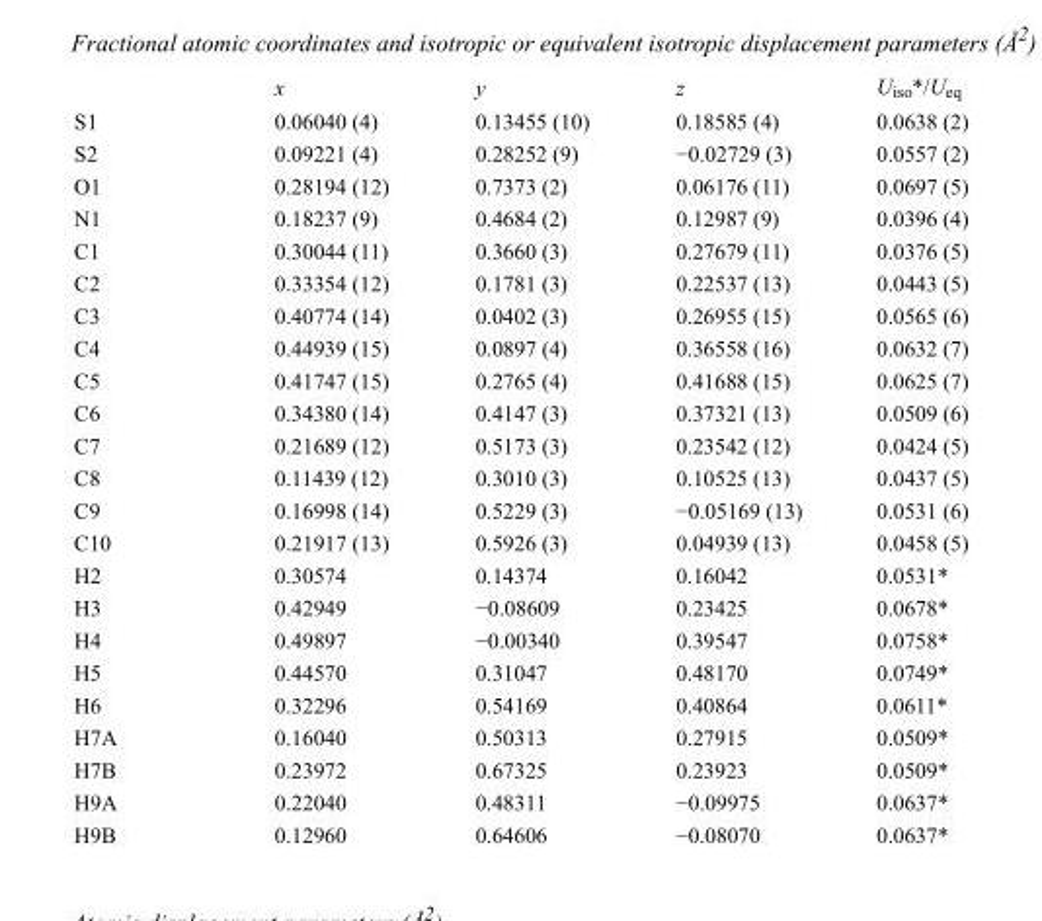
<table><thead><tr><td></td><td>x</td><td>y</td><td>z</td><td>U<sub>iso</sub>*/U<sub>eq</sub></td></tr></thead><tbody><tr><td>S1</td><td>0.06040 (4)</td><td>0.13455 (10)</td><td>0.18585 (4)</td><td>0.0638 (2)</td></tr><tr><td>S2</td><td>0.09221 (4)</td><td>0.28252 (9)</td><td>−0.02729 (3)</td><td>0.0557 (2)</td></tr><tr><td>O1</td><td>0.28194 (12)</td><td>0.7373 (2)</td><td>0.06176 (11)</td><td>0.0697 (5)</td></tr><tr><td>N1</td><td>0.18237 (9)</td><td>0.4684 (2)</td><td>0.12987 (9)</td><td>0.0396 (4)</td></tr><tr><td>C1</td><td>0.30044 (11)</td><td>0.3660 (3)</td><td>0.27679 (11)</td><td>0.0376 (5)</td></tr><tr><td>C2</td><td>0.33354 (12)</td><td>0.1781 (3)</td><td>0.22537 (13)</td><td>0.0443 (5)</td></tr><tr><td>C3</td><td>0.40774 (14)</td><td>0.0402 (3)</td><td>0.26955 (15)</td><td>0.0565 (6)</td></tr><tr><td>C4</td><td>0.44939 (15)</td><td>0.0897 (4)</td><td>0.36558 (16)</td><td>0.0632 (7)</td></tr><tr><td>C5</td><td>0.41747 (15)</td><td>0.2765 (4)</td><td>0.41688 (15)</td><td>0.0625 (7)</td></tr><tr><td>C6</td><td>0.34380 (14)</td><td>0.4147 (3)</td><td>0.37321 (13)</td><td>0.0509 (6)</td></tr><tr><td>C7</td><td>0.21689 (12)</td><td>0.5173 (3)</td><td>0.23542 (12)</td><td>0.0424 (5)</td></tr><tr><td>C8</td><td>0.11439 (12)</td><td>0.3010 (3)</td><td>0.10525 (13)</td><td>0.0437 (5)</td></tr><tr><td>C9</td><td>0.16998 (14)</td><td>0.5229 (3)</td><td>−0.05169 (13)</td><td>0.0531 (6)</td></tr><tr><td>C10</td><td>0.21917 (13)</td><td>0.5926 (3)</td><td>0.04939 (13)</td><td>0.0458 (5)</td></tr><tr><td>H2</td><td>0.30574</td><td>0.14374</td><td>0.16042</td><td>0.0531*</td></tr><tr><td>H3</td><td>0.42949</td><td>−0.08609</td><td>0.23425</td><td>0.0678*</td></tr><tr><td>H4</td><td>0.49897</td><td>−0.00340</td><td>0.39547</td><td>0.0758*</td></tr><tr><td>H5</td><td>0.44570</td><td>0.31047</td><td>0.48170</td><td>0.0749*</td></tr><tr><td>H6</td><td>0.32296</td><td>0.54169</td><td>0.40864</td><td>0.0611*</td></tr><tr><td>H7A</td><td>0.16040</td><td>0.50313</td><td>0.27915</td><td>0.0509*</td></tr><tr><td>H7B</td><td>0.23972</td><td>0.67325</td><td>0.23923</td><td>0.0509*</td></tr><tr><td>H9A</td><td>0.22040</td><td>0.48311</td><td>−0.09975</td><td>0.0637*</td></tr><tr><td>H9B</td><td>0.12960</td><td>0.64606</td><td>−0.08070</td><td>0.0637*</td></tr></tbody></table>